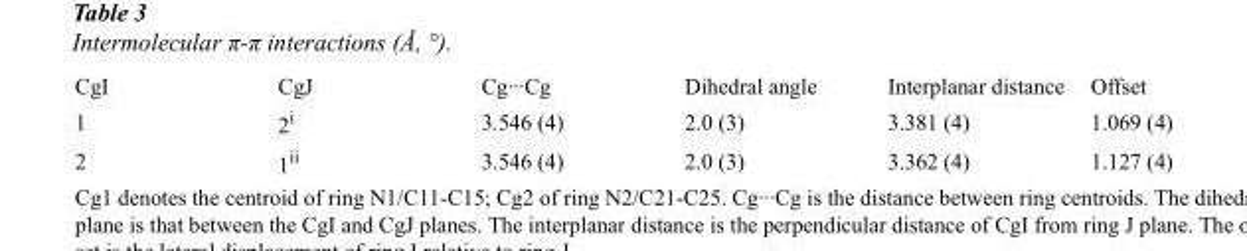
<table><tbody><tr><td>CgI</td><td>CgJ</td><td>Cg···Cg</td><td>Dihedral angle</td><td>Interplanar distance</td><td>Offset</td></tr><tr><td>1</td><td>2<sup>i</sup></td><td>3.546 (4)</td><td>2.0 (3)</td><td>3.381 (4)</td><td>1.069 (4)</td></tr><tr><td>2</td><td>1<sup>ii</sup></td><td>3.546 (4)</td><td>2.0 (3)</td><td>3.362 (4)</td><td>1.127 (4)</td></tr></tbody></table>